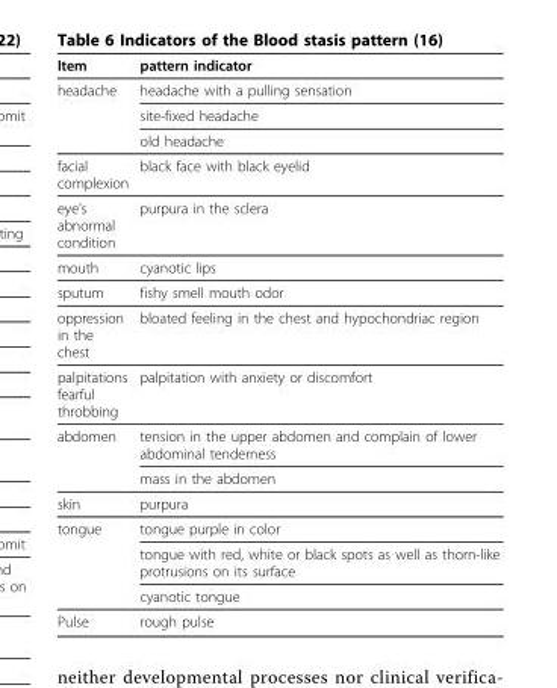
<table><thead><tr><td>Item</td><td>pattern indicator</td></tr></thead><tbody><tr><td rowspan="3">headache</td><td>headache with a pulling sensation</td></tr><tr><td>site-fixed headache</td></tr><tr><td>old headache</td></tr><tr><td>facial complexion</td><td>black face with black eyelid</td></tr><tr><td>eye’s abnormal condition</td><td>purpura in the sclera</td></tr><tr><td>mouth</td><td>cyanotic lips</td></tr><tr><td>sputum</td><td>fishy smell mouth odor</td></tr><tr><td>oppression in the chest</td><td>bloated feeling in the chest and hypochondriac region</td></tr><tr><td>palpitations fearful throbbing</td><td>palpitation with anxiety or discomfort</td></tr><tr><td rowspan="2">abdomen</td><td>tension in the upper abdomen and complain of lower abdominal tenderness</td></tr><tr><td>mass in the abdomen</td></tr><tr><td>skin</td><td>purpura</td></tr><tr><td rowspan="3">tongue</td><td>tongue purple in color</td></tr><tr><td>tongue with red, white or black spots as well as thorn-like protrusions on its surface</td></tr><tr><td>cyanotic tongue</td></tr><tr><td>Pulse</td><td>rough pulse</td></tr></tbody></table>